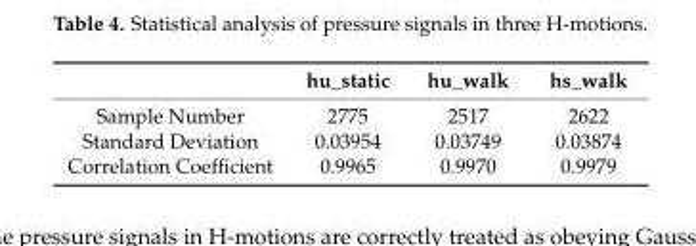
<table><thead><tr><td></td><td>hu_static</td><td>hu_walk</td><td>hs_walk</td></tr></thead><tbody><tr><td>Sample Number</td><td>2775</td><td>2517</td><td>2622</td></tr><tr><td>Standard Deviation</td><td>0.03954</td><td>0.03749</td><td>0.03874</td></tr><tr><td>Correlation Coefficient</td><td>0.9965</td><td>0.9970</td><td>0.9979</td></tr></tbody></table>